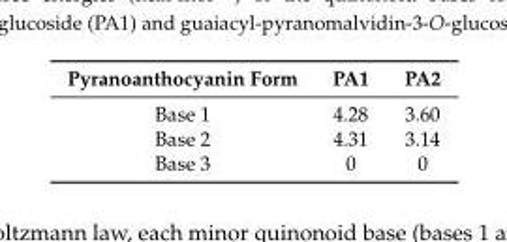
<table><thead><tr><td>Pyranoanthocyanin Form</td><td>PA1</td><td>PA2</td></tr></thead><tbody><tr><td>Base 1</td><td>4.28</td><td>3.60</td></tr><tr><td>Base 2</td><td>4.31</td><td>3.14</td></tr><tr><td>Base 3</td><td>0</td><td>0</td></tr></tbody></table>